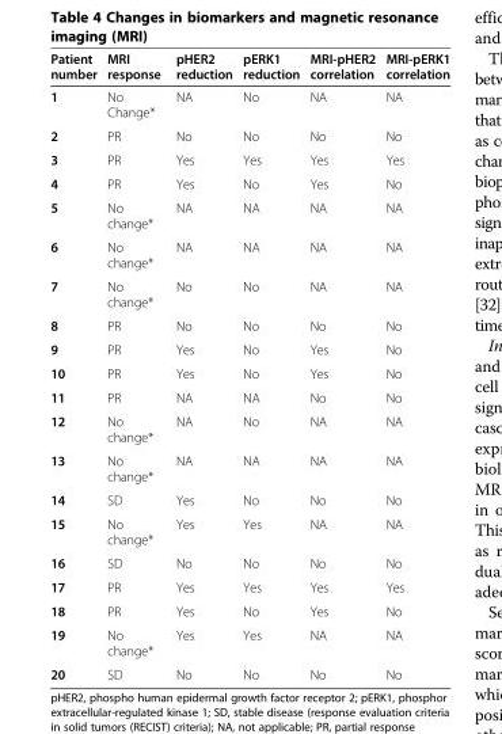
<table><thead><tr><td>Patient number</td><td>MRI response</td><td>pHER2 reduction</td><td>pERK1 reduction</td><td>MRI-pHER2 correlation</td><td>MRI-pERK1 correlation</td></tr></thead><tbody><tr><td>1</td><td>No Change*</td><td>NA</td><td>No</td><td>NA</td><td>NA</td></tr><tr><td>2</td><td>PR</td><td>No</td><td>No</td><td>No</td><td>No</td></tr><tr><td>3</td><td>PR</td><td>Yes</td><td>Yes</td><td>Yes</td><td>Yes</td></tr><tr><td>4</td><td>PR</td><td>Yes</td><td>No</td><td>Yes</td><td>No</td></tr><tr><td>5</td><td>No change*</td><td>NA</td><td>NA</td><td>NA</td><td>NA</td></tr><tr><td>6</td><td>No change*</td><td>NA</td><td>NA</td><td>NA</td><td>NA</td></tr><tr><td>7</td><td>No change*</td><td>No</td><td>No</td><td>NA</td><td>NA</td></tr><tr><td>8</td><td>PR</td><td>No</td><td>No</td><td>No</td><td>No</td></tr><tr><td>9</td><td>PR</td><td>Yes</td><td>No</td><td>Yes</td><td>No</td></tr><tr><td>10</td><td>PR</td><td>Yes</td><td>No</td><td>Yes</td><td>No</td></tr><tr><td>11</td><td>PR</td><td>NA</td><td>NA</td><td>No</td><td>No</td></tr><tr><td>12</td><td>No change*</td><td>NA</td><td>No</td><td>NA</td><td>NA</td></tr><tr><td>13</td><td>No change*</td><td>NA</td><td>NA</td><td>NA</td><td>NA</td></tr><tr><td>14</td><td>SD</td><td>Yes</td><td>No</td><td>No</td><td>No</td></tr><tr><td>15</td><td>No change*</td><td>Yes</td><td>Yes</td><td>NA</td><td>NA</td></tr><tr><td>16</td><td>SD</td><td>No</td><td>No</td><td>No</td><td>No</td></tr><tr><td>17</td><td>PR</td><td>Yes</td><td>Yes</td><td>Yes</td><td>Yes</td></tr><tr><td>18</td><td>PR</td><td>Yes</td><td>No</td><td>Yes</td><td>No</td></tr><tr><td>19</td><td>No change*</td><td>Yes</td><td>Yes</td><td>NA</td><td>NA</td></tr><tr><td>20</td><td>SD</td><td>No</td><td>No</td><td>No</td><td>No</td></tr></tbody></table>